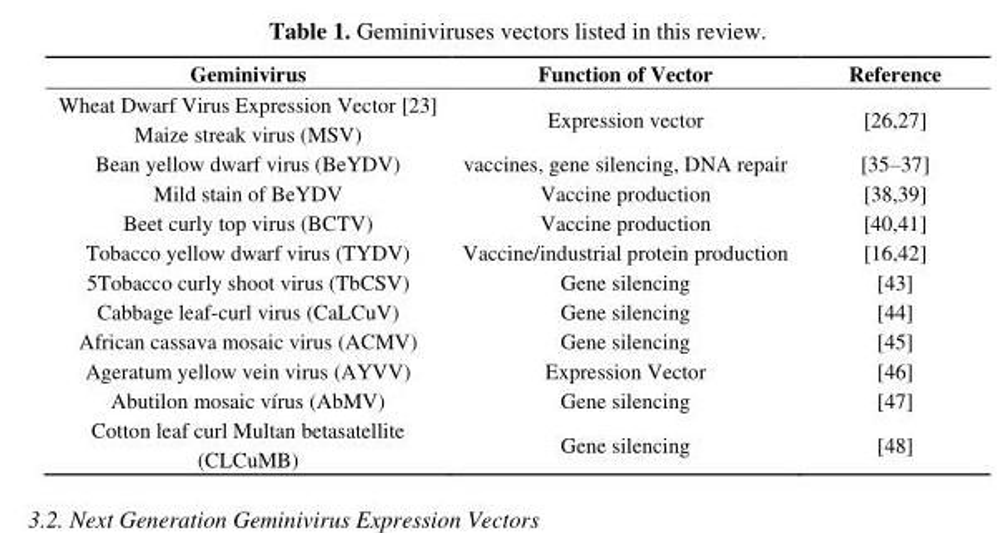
<table><thead><tr><td>Geminivirus</td><td>Function of Vector</td><td>Reference</td></tr></thead><tbody><tr><td>Wheat Dwarf Virus Expression Vector [23] Maize streak virus (MSV)</td><td>Expression vector</td><td>[26,27]</td></tr><tr><td>Bean yellow dwarf virus (BeYDV)</td><td>vaccines, gene silencing, DNA repair</td><td>[35–37]</td></tr><tr><td>Mild stain of BeYDV</td><td>Vaccine production</td><td>[38,39]</td></tr><tr><td>Beet curly top virus (BCTV)</td><td>Vaccine production</td><td>[40,41]</td></tr><tr><td>Tobacco yellow dwarf virus (TYDV)</td><td>Vaccine/industrial protein production</td><td>[16,42]</td></tr><tr><td>5Tobacco curly shoot virus (TbCSV)</td><td>Gene silencing</td><td>[43]</td></tr><tr><td>Cabbage leaf-curl virus (CaLCuV)</td><td>Gene silencing</td><td>[44]</td></tr><tr><td>African cassava mosaic virus (ACMV)</td><td>Gene silencing</td><td>[45]</td></tr><tr><td>Ageratum yellow vein virus (AYVV)</td><td>Expression Vector</td><td>[46]</td></tr><tr><td>Abutilon mosaic vírus (AbMV)</td><td>Gene silencing</td><td>[47]</td></tr><tr><td>Cotton leaf curl Multan betasatellite (CLCuMB)</td><td>Gene silencing</td><td>[48]</td></tr></tbody></table>